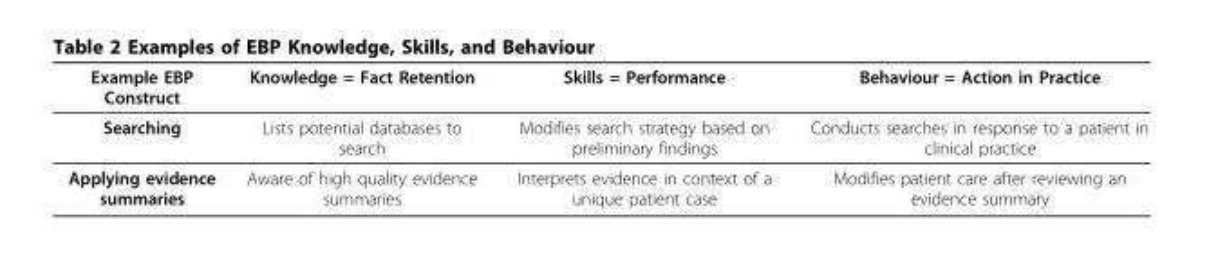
<table><thead><tr><td>Example EBP Construct</td><td>Knowledge = Fact Retention</td><td>Skills = Performance</td><td>Behaviour = Action in Practice</td></tr></thead><tbody><tr><td>Searching</td><td>Lists potential databases to search</td><td>Modifies search strategy based on preliminary findings</td><td>Conducts searches in response to a patient in clinical practice</td></tr><tr><td>Applying evidence summaries</td><td>Aware of high quality evidence summaries</td><td>Interprets evidence in context of a unique patient case</td><td>Modifies patient care after reviewing an evidence summary</td></tr></tbody></table>